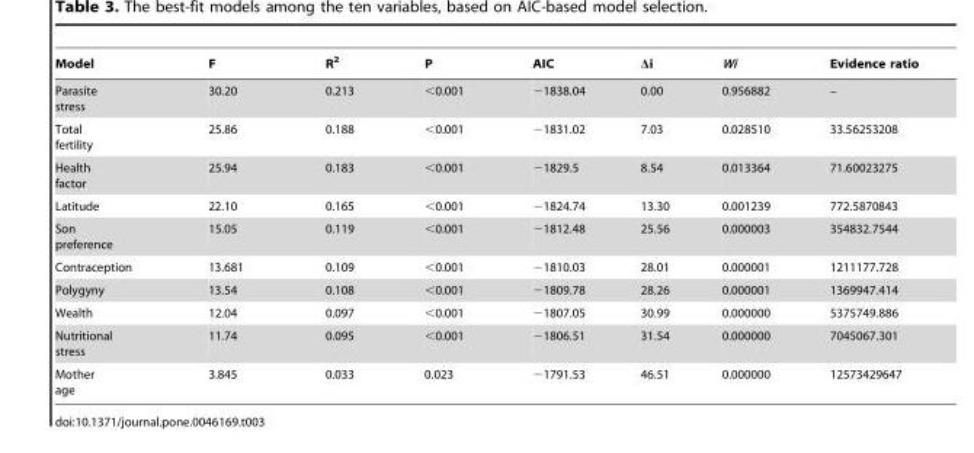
<table><thead><tr><td>Model</td><td>F</td><td>R<sup>2</sup></td><td>P</td><td>AIC</td><td>Δi</td><td>Wi</td><td>Evidence ratio</td></tr></thead><tbody><tr><td>Parasite stress</td><td>30.20</td><td>0.213</td><td>&lt;0.001</td><td>−1838.04</td><td>0.00</td><td>0.956882</td><td>–</td></tr><tr><td>Total fertility</td><td>25.86</td><td>0.188</td><td>&lt;0.001</td><td>−1831.02</td><td>7.03</td><td>0.028510</td><td>33.56253208</td></tr><tr><td>Health factor</td><td>25.94</td><td>0.183</td><td>&lt;0.001</td><td>−1829.5</td><td>8.54</td><td>0.013364</td><td>71.60023275</td></tr><tr><td>Latitude</td><td>22.10</td><td>0.165</td><td>&lt;0.001</td><td>−1824.74</td><td>13.30</td><td>0.001239</td><td>772.5870843</td></tr><tr><td>Son preference</td><td>15.05</td><td>0.119</td><td>&lt;0.001</td><td>−1812.48</td><td>25.56</td><td>0.000003</td><td>354832.7544</td></tr><tr><td>Contraception</td><td>13.681</td><td>0.109</td><td>&lt;0.001</td><td>−1810.03</td><td>28.01</td><td>0.000001</td><td>1211177.728</td></tr><tr><td>Polygyny</td><td>13.54</td><td>0.108</td><td>&lt;0.001</td><td>−1809.78</td><td>28.26</td><td>0.000001</td><td>1369947.414</td></tr><tr><td>Wealth</td><td>12.04</td><td>0.097</td><td>&lt;0.001</td><td>−1807.05</td><td>30.99</td><td>0.000000</td><td>5375749.886</td></tr><tr><td>Nutritional stress</td><td>11.74</td><td>0.095</td><td>&lt;0.001</td><td>−1806.51</td><td>31.54</td><td>0.000000</td><td>7045067.301</td></tr><tr><td>Mother age</td><td>3.845</td><td>0.033</td><td>0.023</td><td>−1791.53</td><td>46.51</td><td>0.000000</td><td>12573429647</td></tr></tbody></table>